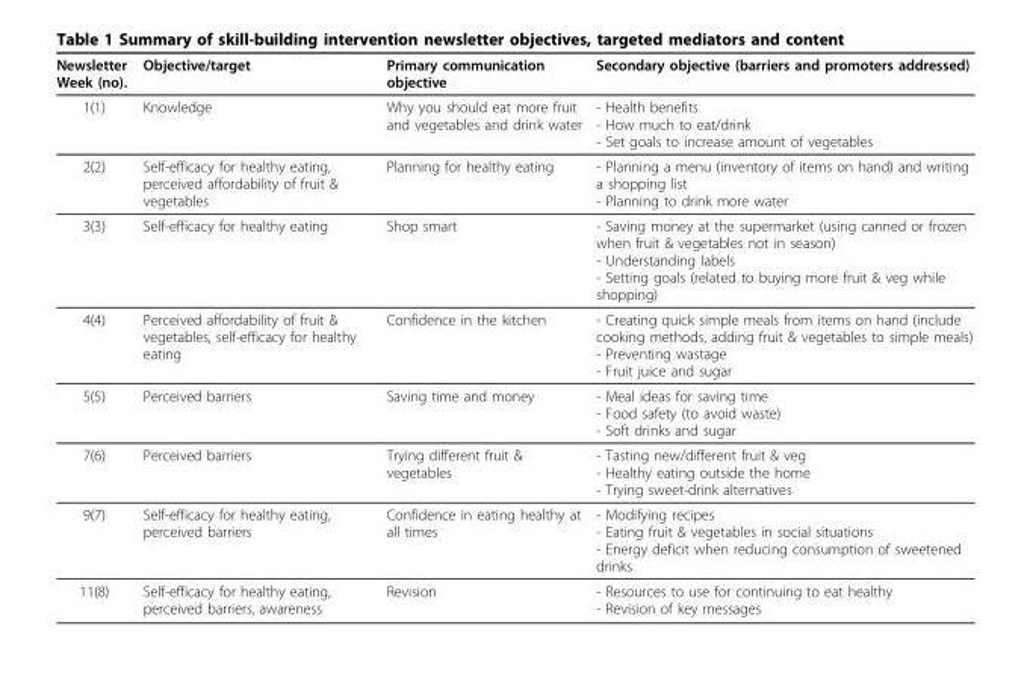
<table><thead><tr><td>Newsletter Week (no).</td><td>Objective/target</td><td>Primary communication objective</td><td>Secondary objective (barriers and promoters addressed)</td></tr></thead><tbody><tr><td>1(1)</td><td>Knowledge</td><td>Why you should eat more fruit and vegetables and drink water</td><td>- Health benefits - How much to eat/drink - Set goals to increase amount of vegetables</td></tr><tr><td>2(2)</td><td>Self-efficacy for healthy eating, perceived affordability of fruit &amp; vegetables</td><td>Planning for healthy eating</td><td>- Planning a menu (inventory of items on hand) and writing a shopping list - Planning to drink more water</td></tr><tr><td>3(3)</td><td>Self-efficacy for healthy eating</td><td>Shop smart</td><td>- Saving money at the supermarket (using canned or frozen when fruit &amp; vegetables not in season) - Understanding labels - Setting goals (related to buying more fruit &amp; veg while shopping)</td></tr><tr><td>4(4)</td><td>Perceived affordability of fruit &amp; vegetables, self-efficacy for healthy eating</td><td>Confidence in the kitchen</td><td>- Creating quick simple meals from items on hand (include cooking methods, adding fruit &amp; vegetables to simple meals) - Preventing wastage - Fruit juice and sugar</td></tr><tr><td>5(5)</td><td>Perceived barriers</td><td>Saving time and money</td><td>- Meal ideas for saving time - Food safety (to avoid waste) - Soft drinks and sugar</td></tr><tr><td>7(6)</td><td>Perceived barriers</td><td>Trying different fruit &amp; vegetables</td><td>- Tasting new/different fruit &amp; veg - Healthy eating outside the home - Trying sweet-drink alternatives</td></tr><tr><td>9(7)</td><td>Self-efficacy for healthy eating, perceived barriers</td><td>Confidence in eating healthy at all times</td><td>- Modifying recipes - Eating fruit &amp; vegetables in social situations - Energy deficit when reducing consumption of sweetened drinks</td></tr><tr><td>11(8)</td><td>Self-efficacy for healthy eating, perceived barriers, awareness</td><td>Revision</td><td>- Resources to use for continuing to eat healthy - Revision of key messages</td></tr></tbody></table>